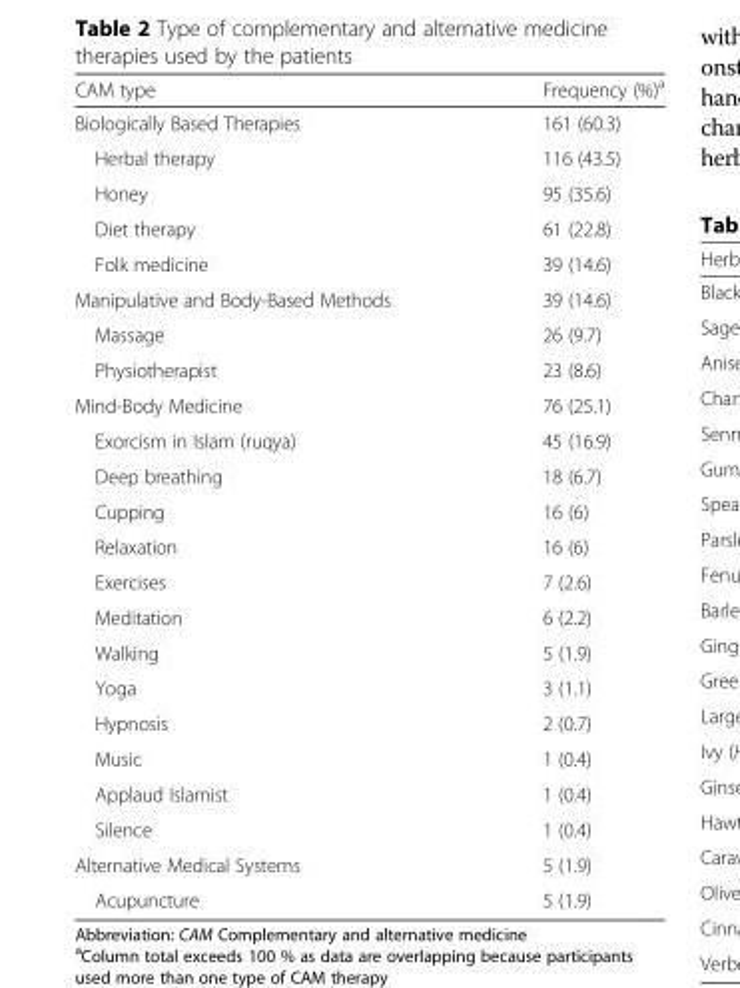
<table><thead><tr><td>CAM type</td><td>Frequency (%)<sup>a</sup></td></tr></thead><tbody><tr><td>Biologically Based Therapies</td><td>161 (60.3)</td></tr><tr><td>Herbal therapy</td><td>116 (43.5)</td></tr><tr><td>Honey</td><td>95 (35.6)</td></tr><tr><td>Diet therapy</td><td>61 (22.8)</td></tr><tr><td>Folk medicine</td><td>39 (14.6)</td></tr><tr><td>Manipulative and Body-Based Methods</td><td>39 (14.6)</td></tr><tr><td>Massage</td><td>26 (9.7)</td></tr><tr><td>Physiotherapist</td><td>23 (8.6)</td></tr><tr><td>Mind-Body Medicine</td><td>76 (25.1)</td></tr><tr><td>Exorcism in Islam (ruqya)</td><td>45 (16.9)</td></tr><tr><td>Deep breathing</td><td>18 (6.7)</td></tr><tr><td>Cupping</td><td>16 (6)</td></tr><tr><td>Relaxation</td><td>16 (6)</td></tr><tr><td>Exercises</td><td>7 (2.6)</td></tr><tr><td>Meditation</td><td>6 (2.2)</td></tr><tr><td>Walking</td><td>5 (1.9)</td></tr><tr><td>Yoga</td><td>3 (1.1)</td></tr><tr><td>Hypnosis</td><td>2 (0.7)</td></tr><tr><td>Music</td><td>1 (0.4)</td></tr><tr><td>Applaud Islamist</td><td>1 (0.4)</td></tr><tr><td>Silence</td><td>1 (0.4)</td></tr><tr><td>Alternative Medical Systems</td><td>5 (1.9)</td></tr><tr><td>Acupuncture</td><td>5 (1.9)</td></tr></tbody></table>